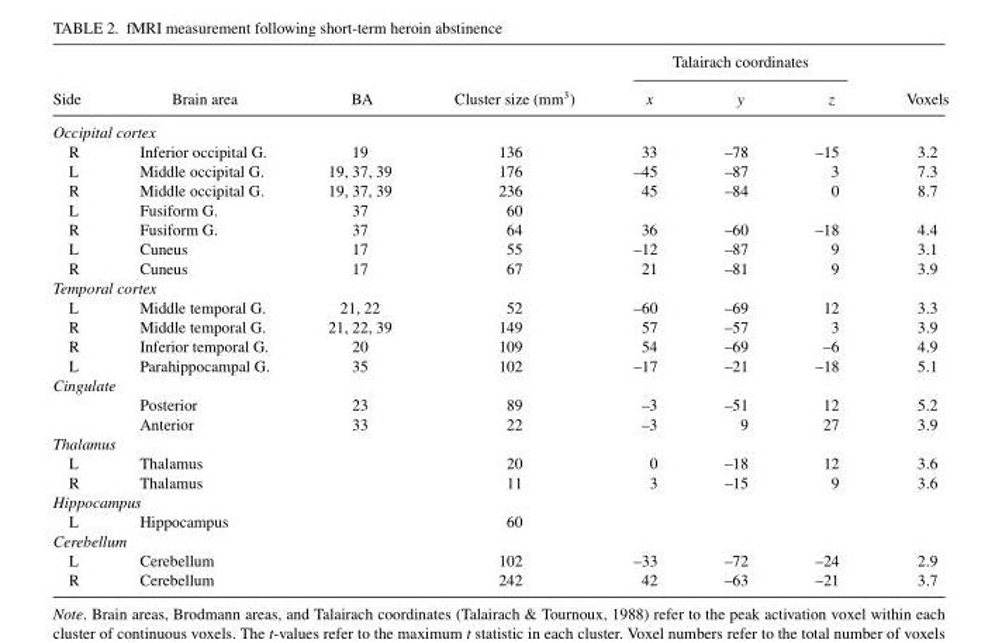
<table><thead><tr><td rowspan="2">Side</td><td rowspan="2">Brain area</td><td rowspan="2">BA</td><td rowspan="2">Cluster size (mm<sup>3</sup>)</td><td colspan="3">Talairach coordinates</td><td rowspan="2">Voxels</td></tr><tr><td>x</td><td>y</td><td>z</td></tr></thead><tbody><tr><td colspan="8">Occipital cortex</td></tr><tr><td>R</td><td>Inferior occipital G.</td><td>19</td><td>136</td><td>33</td><td>–78</td><td>–15</td><td>3.2</td></tr><tr><td>L</td><td>Middle occipital G.</td><td>19, 37, 39</td><td>176</td><td>–45</td><td>–87</td><td>3</td><td>7.3</td></tr><tr><td>R</td><td>Middle occipital G.</td><td>19, 37, 39</td><td>236</td><td>45</td><td>–84</td><td>0</td><td>8.7</td></tr><tr><td>L</td><td>Fusiform G.</td><td>37</td><td>60</td><td></td><td></td><td></td><td></td></tr><tr><td>R</td><td>Fusiform G.</td><td>37</td><td>64</td><td>36</td><td>–60</td><td>–18</td><td>4.4</td></tr><tr><td>L</td><td>Cuneus</td><td>17</td><td>55</td><td>–12</td><td>–87</td><td>9</td><td>3.1</td></tr><tr><td>R</td><td>Cuneus</td><td>17</td><td>67</td><td>21</td><td>–81</td><td>9</td><td>3.9</td></tr><tr><td colspan="8">Temporal cortex</td></tr><tr><td>L</td><td>Middle temporal G.</td><td>21, 22</td><td>52</td><td>–60</td><td>–69</td><td>12</td><td>3.3</td></tr><tr><td>R</td><td>Middle temporal G.</td><td>21, 22, 39</td><td>149</td><td>57</td><td>–57</td><td>3</td><td>3.9</td></tr><tr><td>R</td><td>Inferior temporal G.</td><td>20</td><td>109</td><td>54</td><td>–69</td><td>–6</td><td>4.9</td></tr><tr><td>L</td><td>Parahippocampal G.</td><td>35</td><td>102</td><td>–17</td><td>–21</td><td>–18</td><td>5.1</td></tr><tr><td colspan="8">Cingulate</td></tr><tr><td></td><td>Posterior</td><td>23</td><td>89</td><td>–3</td><td>–51</td><td>12</td><td>5.2</td></tr><tr><td></td><td>Anterior</td><td>33</td><td>22</td><td>–3</td><td>9</td><td>27</td><td>3.9</td></tr><tr><td colspan="8">Thalamus</td></tr><tr><td>L</td><td>Thalamus</td><td></td><td>20</td><td>0</td><td>–18</td><td>12</td><td>3.6</td></tr><tr><td>R</td><td>Thalamus</td><td></td><td>11</td><td>3</td><td>–15</td><td>9</td><td>3.6</td></tr><tr><td colspan="8">Hippocampus</td></tr><tr><td>L</td><td>Hippocampus</td><td></td><td>60</td><td></td><td></td><td></td><td></td></tr><tr><td colspan="8">Cerebellum</td></tr><tr><td>L</td><td>Cerebellum</td><td></td><td>102</td><td>–33</td><td>–72</td><td>–24</td><td>2.9</td></tr><tr><td>R</td><td>Cerebellum</td><td></td><td>242</td><td>42</td><td>–63</td><td>–21</td><td>3.7</td></tr></tbody></table>